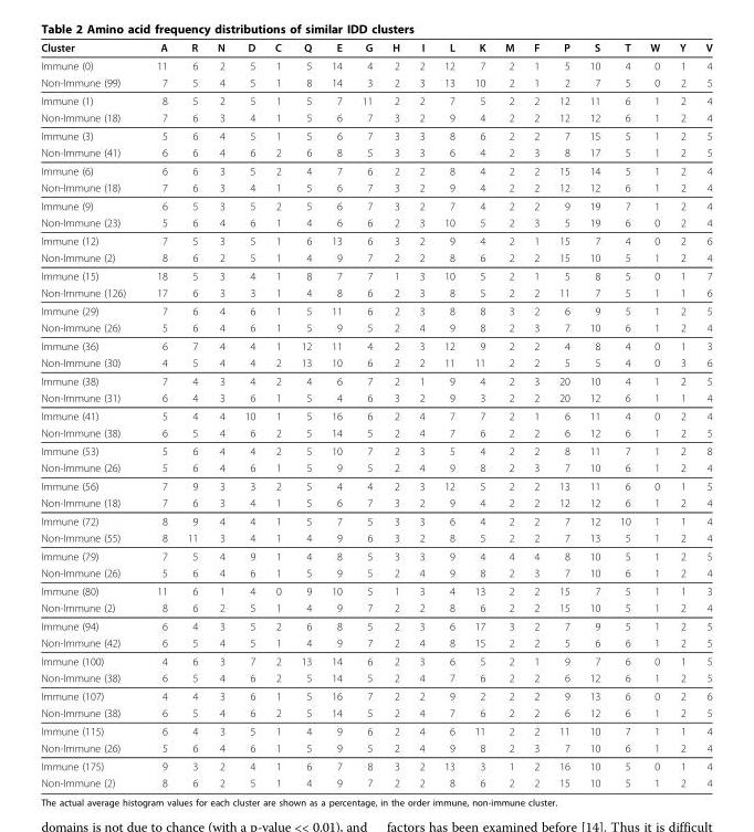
<table><thead><tr><td>Cluster</td><td>A</td><td>R</td><td>N</td><td>D</td><td>C</td><td>Q</td><td>E</td><td>G</td><td>H</td><td>I</td><td>L</td><td>K</td><td>M</td><td>F</td><td>P</td><td>S</td><td>T</td><td>W</td><td>Y</td><td>V</td></tr></thead><tbody><tr><td>Immune (0)</td><td>11</td><td>6</td><td>2</td><td>5</td><td>1</td><td>5</td><td>14</td><td>4</td><td>2</td><td>2</td><td>12</td><td>7</td><td>2</td><td>1</td><td>5</td><td>10</td><td>4</td><td>0</td><td>1</td><td>4</td></tr><tr><td>Non-Immune (99)</td><td>7</td><td>5</td><td>4</td><td>5</td><td>1</td><td>8</td><td>14</td><td>3</td><td>2</td><td>3</td><td>13</td><td>10</td><td>2</td><td>1</td><td>2</td><td>7</td><td>5</td><td>0</td><td>2</td><td>5</td></tr><tr><td>Immune (1)</td><td>8</td><td>5</td><td>2</td><td>5</td><td>1</td><td>5</td><td>7</td><td>11</td><td>2</td><td>2</td><td>7</td><td>5</td><td>2</td><td>2</td><td>12</td><td>11</td><td>6</td><td>1</td><td>2</td><td>4</td></tr><tr><td>Non-Immune (18)</td><td>7</td><td>6</td><td>3</td><td>4</td><td>1</td><td>5</td><td>6</td><td>7</td><td>3</td><td>2</td><td>9</td><td>4</td><td>2</td><td>2</td><td>12</td><td>12</td><td>6</td><td>1</td><td>2</td><td>4</td></tr><tr><td>Immune (3)</td><td>5</td><td>6</td><td>4</td><td>5</td><td>1</td><td>5</td><td>6</td><td>7</td><td>3</td><td>3</td><td>8</td><td>6</td><td>2</td><td>2</td><td>7</td><td>15</td><td>5</td><td>1</td><td>2</td><td>5</td></tr><tr><td>Non-Immune (41)</td><td>6</td><td>6</td><td>4</td><td>6</td><td>2</td><td>6</td><td>8</td><td>5</td><td>3</td><td>3</td><td>6</td><td>4</td><td>2</td><td>3</td><td>8</td><td>17</td><td>5</td><td>1</td><td>2</td><td>5</td></tr><tr><td>Immune (6)</td><td>6</td><td>6</td><td>3</td><td>5</td><td>2</td><td>4</td><td>7</td><td>6</td><td>2</td><td>2</td><td>8</td><td>4</td><td>2</td><td>2</td><td>15</td><td>14</td><td>5</td><td>1</td><td>2</td><td>4</td></tr><tr><td>Non-Immune (18)</td><td>7</td><td>6</td><td>3</td><td>4</td><td>1</td><td>5</td><td>6</td><td>7</td><td>3</td><td>2</td><td>9</td><td>4</td><td>2</td><td>2</td><td>12</td><td>12</td><td>6</td><td>1</td><td>2</td><td>4</td></tr><tr><td>Immune (9)</td><td>6</td><td>5</td><td>3</td><td>5</td><td>2</td><td>5</td><td>6</td><td>7</td><td>3</td><td>2</td><td>7</td><td>4</td><td>2</td><td>2</td><td>9</td><td>19</td><td>7</td><td>1</td><td>2</td><td>4</td></tr><tr><td>Non-Immune (23)</td><td>5</td><td>6</td><td>4</td><td>6</td><td>1</td><td>4</td><td>6</td><td>6</td><td>2</td><td>3</td><td>10</td><td>5</td><td>2</td><td>3</td><td>5</td><td>19</td><td>6</td><td>0</td><td>2</td><td>4</td></tr><tr><td>Immune (12)</td><td>7</td><td>5</td><td>3</td><td>5</td><td>1</td><td>6</td><td>13</td><td>6</td><td>3</td><td>2</td><td>9</td><td>4</td><td>2</td><td>1</td><td>15</td><td>7</td><td>4</td><td>0</td><td>2</td><td>6</td></tr><tr><td>Non-Immune (2)</td><td>8</td><td>6</td><td>2</td><td>5</td><td>1</td><td>4</td><td>9</td><td>7</td><td>2</td><td>2</td><td>8</td><td>6</td><td>2</td><td>2</td><td>15</td><td>10</td><td>5</td><td>1</td><td>2</td><td>4</td></tr><tr><td>Immune (15)</td><td>18</td><td>5</td><td>3</td><td>4</td><td>1</td><td>8</td><td>7</td><td>7</td><td>1</td><td>3</td><td>10</td><td>5</td><td>2</td><td>1</td><td>5</td><td>8</td><td>5</td><td>0</td><td>1</td><td>7</td></tr><tr><td>Non-Immune (126)</td><td>17</td><td>6</td><td>3</td><td>3</td><td>1</td><td>4</td><td>8</td><td>6</td><td>2</td><td>3</td><td>8</td><td>5</td><td>2</td><td>2</td><td>11</td><td>7</td><td>5</td><td>1</td><td>1</td><td>6</td></tr><tr><td>Immune (29)</td><td>7</td><td>6</td><td>4</td><td>6</td><td>1</td><td>5</td><td>11</td><td>6</td><td>2</td><td>3</td><td>8</td><td>8</td><td>3</td><td>2</td><td>6</td><td>9</td><td>5</td><td>1</td><td>2</td><td>5</td></tr><tr><td>Non-Immune (26)</td><td>5</td><td>6</td><td>4</td><td>6</td><td>1</td><td>5</td><td>9</td><td>5</td><td>2</td><td>4</td><td>9</td><td>8</td><td>2</td><td>3</td><td>7</td><td>10</td><td>6</td><td>1</td><td>2</td><td>4</td></tr><tr><td>Immune (36)</td><td>6</td><td>7</td><td>4</td><td>4</td><td>1</td><td>12</td><td>11</td><td>4</td><td>2</td><td>3</td><td>12</td><td>9</td><td>2</td><td>2</td><td>4</td><td>8</td><td>4</td><td>0</td><td>1</td><td>3</td></tr><tr><td>Non-Immune (30)</td><td>4</td><td>5</td><td>4</td><td>4</td><td>2</td><td>13</td><td>10</td><td>6</td><td>2</td><td>2</td><td>11</td><td>11</td><td>2</td><td>2</td><td>5</td><td>5</td><td>4</td><td>0</td><td>3</td><td>6</td></tr><tr><td>Immune (38)</td><td>7</td><td>4</td><td>3</td><td>4</td><td>2</td><td>4</td><td>6</td><td>7</td><td>2</td><td>1</td><td>9</td><td>4</td><td>2</td><td>3</td><td>20</td><td>10</td><td>4</td><td>1</td><td>2</td><td>5</td></tr><tr><td>Non-Immune (31)</td><td>6</td><td>4</td><td>3</td><td>6</td><td>1</td><td>5</td><td>4</td><td>6</td><td>3</td><td>2</td><td>9</td><td>3</td><td>2</td><td>2</td><td>20</td><td>12</td><td>6</td><td>1</td><td>1</td><td>4</td></tr><tr><td>Immune (41)</td><td>5</td><td>4</td><td>4</td><td>10</td><td>1</td><td>5</td><td>16</td><td>6</td><td>2</td><td>4</td><td>7</td><td>7</td><td>2</td><td>1</td><td>6</td><td>11</td><td>4</td><td>0</td><td>2</td><td>4</td></tr><tr><td>Non-Immune (38)</td><td>6</td><td>5</td><td>4</td><td>6</td><td>2</td><td>5</td><td>14</td><td>5</td><td>2</td><td>4</td><td>7</td><td>6</td><td>2</td><td>2</td><td>6</td><td>12</td><td>6</td><td>1</td><td>2</td><td>5</td></tr><tr><td>Immune (53)</td><td>5</td><td>6</td><td>4</td><td>4</td><td>2</td><td>5</td><td>10</td><td>7</td><td>2</td><td>3</td><td>5</td><td>4</td><td>2</td><td>2</td><td>8</td><td>11</td><td>7</td><td>1</td><td>2</td><td>8</td></tr><tr><td>Non-Immune (26)</td><td>5</td><td>6</td><td>4</td><td>6</td><td>1</td><td>5</td><td>9</td><td>5</td><td>2</td><td>4</td><td>9</td><td>8</td><td>2</td><td>3</td><td>7</td><td>10</td><td>6</td><td>1</td><td>2</td><td>4</td></tr><tr><td>Immune (56)</td><td>7</td><td>9</td><td>3</td><td>3</td><td>2</td><td>5</td><td>4</td><td>4</td><td>2</td><td>3</td><td>12</td><td>5</td><td>2</td><td>2</td><td>13</td><td>11</td><td>6</td><td>0</td><td>1</td><td>5</td></tr><tr><td>Non-Immune (18)</td><td>7</td><td>6</td><td>3</td><td>4</td><td>1</td><td>5</td><td>6</td><td>7</td><td>3</td><td>2</td><td>9</td><td>4</td><td>2</td><td>2</td><td>12</td><td>12</td><td>6</td><td>1</td><td>2</td><td>4</td></tr><tr><td>Immune (72)</td><td>8</td><td>9</td><td>4</td><td>4</td><td>1</td><td>5</td><td>7</td><td>5</td><td>3</td><td>3</td><td>6</td><td>4</td><td>2</td><td>2</td><td>7</td><td>12</td><td>10</td><td>1</td><td>1</td><td>4</td></tr><tr><td>Non-Immune (55)</td><td>8</td><td>11</td><td>3</td><td>4</td><td>1</td><td>4</td><td>9</td><td>6</td><td>3</td><td>2</td><td>8</td><td>5</td><td>2</td><td>2</td><td>7</td><td>13</td><td>5</td><td>1</td><td>2</td><td>4</td></tr><tr><td>Immune (79)</td><td>7</td><td>5</td><td>4</td><td>9</td><td>1</td><td>4</td><td>8</td><td>5</td><td>3</td><td>3</td><td>9</td><td>4</td><td>4</td><td>4</td><td>8</td><td>10</td><td>5</td><td>1</td><td>2</td><td>5</td></tr><tr><td>Non-Immune (26)</td><td>5</td><td>6</td><td>4</td><td>6</td><td>1</td><td>5</td><td>9</td><td>5</td><td>2</td><td>4</td><td>9</td><td>8</td><td>2</td><td>3</td><td>7</td><td>10</td><td>6</td><td>1</td><td>2</td><td>4</td></tr><tr><td>Immune (80)</td><td>11</td><td>6</td><td>1</td><td>4</td><td>0</td><td>9</td><td>10</td><td>5</td><td>1</td><td>3</td><td>4</td><td>13</td><td>2</td><td>2</td><td>15</td><td>7</td><td>5</td><td>1</td><td>1</td><td>3</td></tr><tr><td>Non-Immune (2)</td><td>8</td><td>6</td><td>2</td><td>5</td><td>1</td><td>4</td><td>9</td><td>7</td><td>2</td><td>2</td><td>8</td><td>6</td><td>2</td><td>2</td><td>15</td><td>10</td><td>5</td><td>1</td><td>2</td><td>4</td></tr><tr><td>Immune (94)</td><td>6</td><td>4</td><td>3</td><td>5</td><td>2</td><td>6</td><td>8</td><td>5</td><td>2</td><td>3</td><td>6</td><td>17</td><td>3</td><td>2</td><td>7</td><td>9</td><td>5</td><td>1</td><td>2</td><td>5</td></tr><tr><td>Non-Immune (42)</td><td>6</td><td>5</td><td>4</td><td>5</td><td>1</td><td>4</td><td>9</td><td>7</td><td>2</td><td>4</td><td>8</td><td>15</td><td>2</td><td>2</td><td>5</td><td>6</td><td>6</td><td>1</td><td>2</td><td>5</td></tr><tr><td>Immune (100)</td><td>4</td><td>6</td><td>3</td><td>7</td><td>2</td><td>13</td><td>14</td><td>6</td><td>2</td><td>3</td><td>6</td><td>5</td><td>2</td><td>1</td><td>9</td><td>7</td><td>6</td><td>0</td><td>1</td><td>5</td></tr><tr><td>Non-Immune (38)</td><td>6</td><td>5</td><td>4</td><td>6</td><td>2</td><td>5</td><td>14</td><td>5</td><td>2</td><td>4</td><td>7</td><td>6</td><td>2</td><td>2</td><td>6</td><td>12</td><td>6</td><td>1</td><td>2</td><td>5</td></tr><tr><td>Immune (107)</td><td>4</td><td>4</td><td>3</td><td>6</td><td>1</td><td>5</td><td>16</td><td>7</td><td>2</td><td>2</td><td>9</td><td>2</td><td>2</td><td>2</td><td>9</td><td>13</td><td>6</td><td>0</td><td>2</td><td>6</td></tr><tr><td>Non-Immune (38)</td><td>6</td><td>5</td><td>4</td><td>6</td><td>2</td><td>5</td><td>14</td><td>5</td><td>2</td><td>4</td><td>7</td><td>6</td><td>2</td><td>2</td><td>6</td><td>12</td><td>6</td><td>1</td><td>2</td><td>5</td></tr><tr><td>Immune (115)</td><td>6</td><td>4</td><td>3</td><td>5</td><td>1</td><td>4</td><td>9</td><td>6</td><td>2</td><td>4</td><td>6</td><td>11</td><td>2</td><td>2</td><td>11</td><td>10</td><td>7</td><td>1</td><td>1</td><td>4</td></tr><tr><td>Non-Immune (26)</td><td>5</td><td>6</td><td>4</td><td>6</td><td>1</td><td>5</td><td>9</td><td>5</td><td>2</td><td>4</td><td>9</td><td>8</td><td>2</td><td>3</td><td>7</td><td>10</td><td>6</td><td>1</td><td>2</td><td>4</td></tr><tr><td>Immune (175)</td><td>9</td><td>3</td><td>2</td><td>4</td><td>1</td><td>6</td><td>7</td><td>8</td><td>3</td><td>2</td><td>13</td><td>3</td><td>1</td><td>2</td><td>16</td><td>10</td><td>5</td><td>0</td><td>1</td><td>4</td></tr><tr><td>Non-Immune (2)</td><td>8</td><td>6</td><td>2</td><td>5</td><td>1</td><td>4</td><td>9</td><td>7</td><td>2</td><td>2</td><td>8</td><td>6</td><td>2</td><td>2</td><td>15</td><td>10</td><td>5</td><td>1</td><td>2</td><td>4</td></tr></tbody></table>